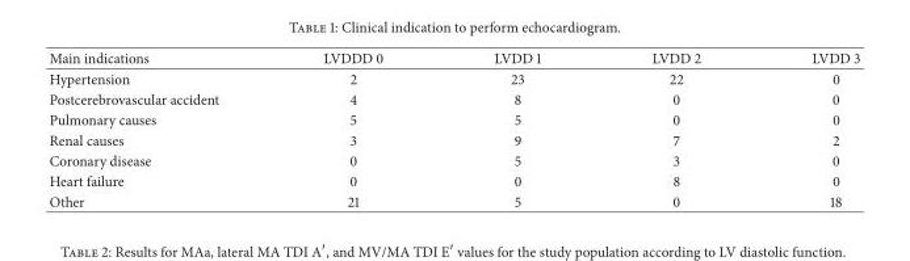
<table><thead><tr><td>Main indications</td><td>LVDDD 0</td><td>LVDD 1</td><td>LVDD 2</td><td>LVDD 3</td></tr></thead><tbody><tr><td>Hypertension</td><td>2</td><td>23</td><td>22</td><td>0</td></tr><tr><td>Postcerebrovascular accident</td><td>4</td><td>8</td><td>0</td><td>0</td></tr><tr><td>Pulmonary causes</td><td>5</td><td>5</td><td>0</td><td>0</td></tr><tr><td>Renal causes</td><td>3</td><td>9</td><td>7</td><td>2</td></tr><tr><td>Coronary disease</td><td>0</td><td>5</td><td>3</td><td>0</td></tr><tr><td>Heart failure</td><td>0</td><td>0</td><td>8</td><td>0</td></tr><tr><td>Other</td><td>21</td><td>5</td><td>0</td><td>18</td></tr></tbody></table>